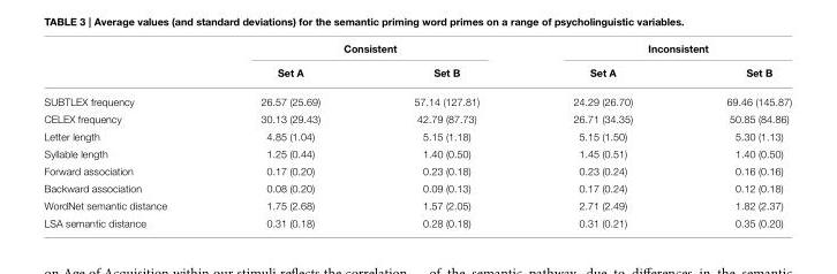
<table><thead><tr><td rowspan="2"></td><td colspan="2">Consistent</td><td colspan="2">Inconsistent</td></tr><tr><td>Set A</td><td>Set B</td><td>Set A</td><td>Set B</td></tr></thead><tbody><tr><td>SUBTLEX frequency</td><td>26.57 (25.69)</td><td>57.14 (127.81)</td><td>24.29 (26.70)</td><td>69.46 (145.87)</td></tr><tr><td>CELEX frequency</td><td>30.13 (29.43)</td><td>42.79 (87.73)</td><td>26.71 (34.35)</td><td>50.85 (84.86)</td></tr><tr><td>Letter length</td><td>4.85 (1.04)</td><td>5.15 (1.18)</td><td>5.15 (1.50)</td><td>5.30 (1.13)</td></tr><tr><td>Syllable length</td><td>1.25 (0.44)</td><td>1.40 (0.50)</td><td>1.45 (0.51)</td><td>1.40 (0.50)</td></tr><tr><td>Forward association</td><td>0.17 (0.20)</td><td>0.23 (0.18)</td><td>0.23 (0.24)</td><td>0.16 (0.16)</td></tr><tr><td>Backward association</td><td>0.08 (0.20)</td><td>0.09 (0.13)</td><td>0.17 (0.24)</td><td>0.12 (0.18)</td></tr><tr><td>WordNet semantic distance</td><td>1.75 (2.68)</td><td>1.57 (2.05)</td><td>2.71 (2.49)</td><td>1.82 (2.37)</td></tr><tr><td>LSA semantic distance</td><td>0.31 (0.18)</td><td>0.28 (0.18)</td><td>0.31 (0.21)</td><td>0.35 (0.20)</td></tr></tbody></table>